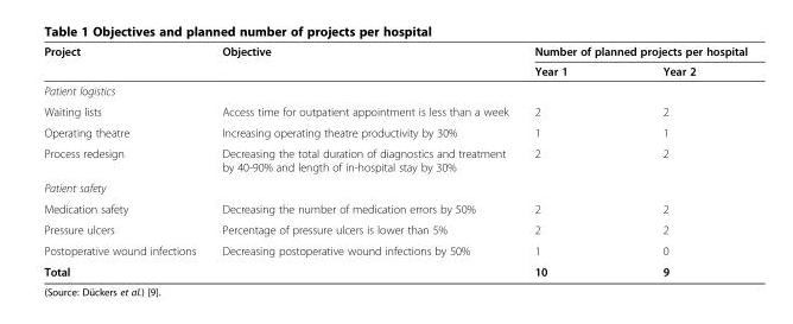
<table><thead><tr><td rowspan="2">Project</td><td rowspan="2">Objective</td><td colspan="2">Number of planned projects per hospital</td></tr><tr><td>Year 1</td><td>Year 2</td></tr></thead><tbody><tr><td colspan="4">Patient logistics</td></tr><tr><td>Waiting lists</td><td>Access time for outpatient appointment is less than a week</td><td>2</td><td>2</td></tr><tr><td>Operating theatre</td><td>Increasing operating theatre productivity by 30%</td><td>1</td><td>1</td></tr><tr><td>Process redesign</td><td>Decreasing the total duration of diagnostics and treatment by 40-90% and length of in-hospital stay by 30%</td><td>2</td><td>2</td></tr><tr><td colspan="4">Patient safety</td></tr><tr><td>Medication safety</td><td>Decreasing the number of medication errors by 50%</td><td>2</td><td>2</td></tr><tr><td>Pressure ulcers</td><td>Percentage of pressure ulcers is lower than 5%</td><td>2</td><td>2</td></tr><tr><td>Postoperative wound infections</td><td>Decreasing postoperative wound infections by 50%</td><td>1</td><td>0</td></tr><tr><td>Total</td><td></td><td>10</td><td>9</td></tr></tbody></table>